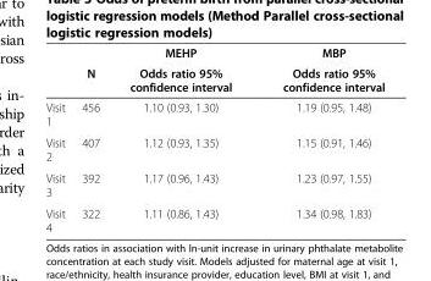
<table><thead><tr><td rowspan="2"></td><td rowspan="2">N</td><td rowspan="2">MEHP Odds ratio 95% confidence interval</td><td rowspan="2">MBP Odds ratio 95% confidence interval</td></tr><tr></tr></thead><tbody><tr><td>Visit 1</td><td>456</td><td>1.10 (0.93, 1.30)</td><td>1.19 (0.95, 1.48)</td></tr><tr><td>Visit 2</td><td>407</td><td>1.12 (0.93, 1.35)</td><td>1.15 (0.91, 1.46)</td></tr><tr><td>Visit 3</td><td>392</td><td>1.17 (0.96, 1.43)</td><td>1.23 (0.97, 1.55)</td></tr><tr><td>Visit 4</td><td>322</td><td>1.11 (0.86, 1.43)</td><td>1.34 (0.98, 1.83)</td></tr></tbody></table>